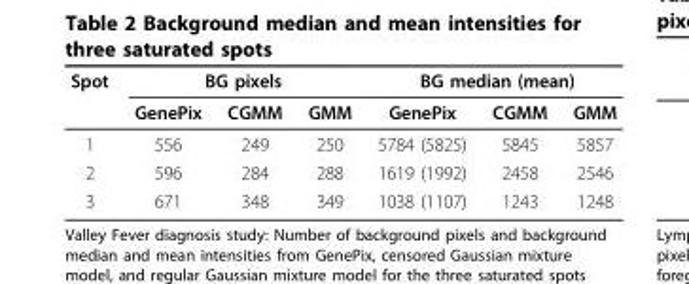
<table><thead><tr><td rowspan="2">Spot</td><td colspan="3">BG pixels</td><td colspan="3">BG median (mean)</td></tr><tr><td>GenePix</td><td>CGMM</td><td>GMM</td><td>GenePix</td><td>CGMM</td><td>GMM</td></tr></thead><tbody><tr><td>1</td><td>556</td><td>249</td><td>250</td><td>5784 (5825)</td><td>5845</td><td>5857</td></tr><tr><td>2</td><td>596</td><td>284</td><td>288</td><td>1619 (1992)</td><td>2458</td><td>2546</td></tr><tr><td>3</td><td>671</td><td>348</td><td>349</td><td>1038 (1107)</td><td>1243</td><td>1248</td></tr></tbody></table>